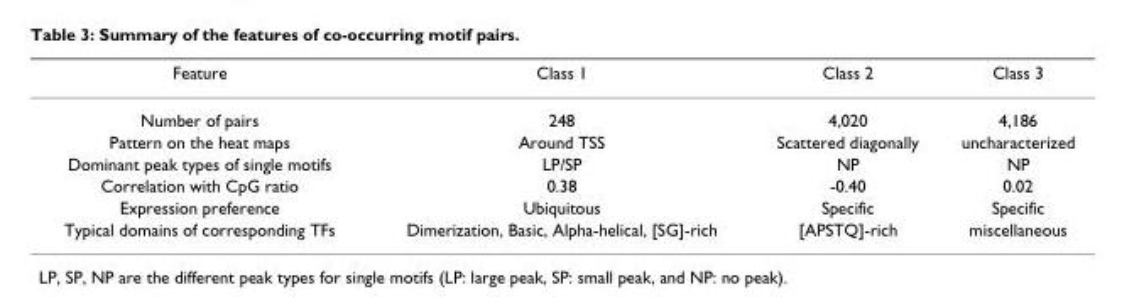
<table><thead><tr><td>Feature</td><td>Class 1</td><td>Class 2</td><td>Class 3</td></tr></thead><tbody><tr><td>Number of pairs</td><td>248</td><td>4,020</td><td>4,186</td></tr><tr><td>Pattern on the heat maps</td><td>Around TSS</td><td>Scattered diagonally</td><td>uncharacterized</td></tr><tr><td>Dominant peak types of single motifs</td><td>LP/SP</td><td>NP</td><td>NP</td></tr><tr><td>Correlation with CpG ratio</td><td>0.38</td><td>-0.40</td><td>0.02</td></tr><tr><td>Expression preference</td><td>Ubiquitous</td><td>Specific</td><td>Specific</td></tr><tr><td>Typical domains of corresponding TFs</td><td>Dimerization, Basic, Alpha-helical, [SG]-rich</td><td>[APSTQ]-rich</td><td>miscellaneous</td></tr></tbody></table>